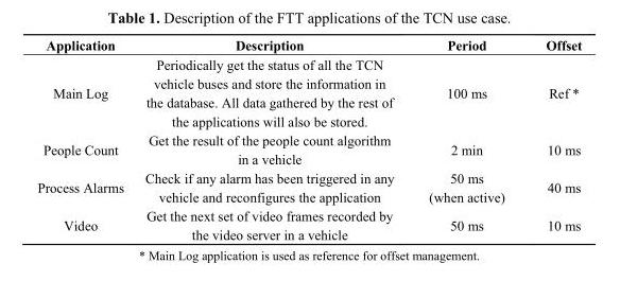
<table><thead><tr><td>Application</td><td>Description</td><td>Period</td><td>Offset</td></tr></thead><tbody><tr><td>Main Log</td><td>Periodically get the status of all the TCN vehicle buses and store the information in the database. All data gathered by the rest of the applications will also be stored.</td><td>100 ms</td><td>Ref *</td></tr><tr><td>People Count</td><td>Get the result of the people count algorithm in a vehicle</td><td>2 min</td><td>10 ms</td></tr><tr><td>Process Alarms</td><td>Check if any alarm has been triggered in any vehicle and reconfigures the application</td><td>50 ms (when active)</td><td>40 ms</td></tr><tr><td>Video</td><td>Get the next set of video frames recorded by the video server in a vehicle</td><td>50 ms</td><td>10 ms</td></tr></tbody></table>